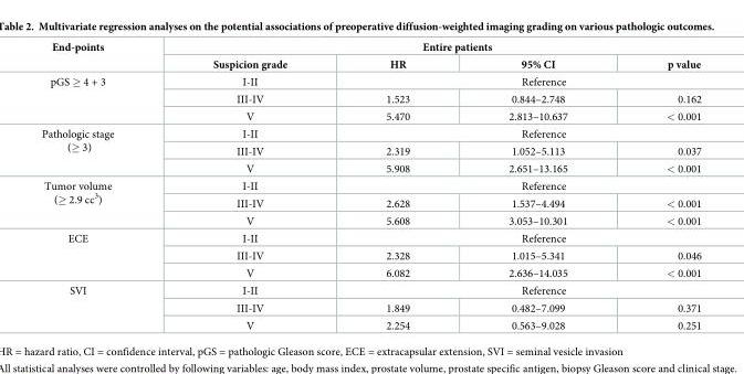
<table><thead><tr><td rowspan="2">End-points</td><td colspan="4">Entire patients</td></tr><tr><td>Suspicion grade</td><td>HR</td><td>95% CI</td><td>p value</td></tr></thead><tbody><tr><td rowspan="3">pGS ≥ 4 + 3</td><td>I-II</td><td colspan="3">Reference</td></tr><tr><td>III-IV</td><td>1.523</td><td>0.844–2.748</td><td>0.162</td></tr><tr><td>V</td><td>5.470</td><td>2.813–10.637</td><td>&lt; 0.001</td></tr><tr><td rowspan="3">Pathologic stage (≥ 3)</td><td>I-II</td><td colspan="3">Reference</td></tr><tr><td>III-IV</td><td>2.319</td><td>1.052–5.113</td><td>0.037</td></tr><tr><td>V</td><td>5.908</td><td>2.651–13.165</td><td>&lt; 0.001</td></tr><tr><td rowspan="3">Tumor volume (≥ 2.9 cc<sup>3</sup>)</td><td>I-II</td><td colspan="3">Reference</td></tr><tr><td>III-IV</td><td>2.628</td><td>1.537–4.494</td><td>&lt; 0.001</td></tr><tr><td>V</td><td>5.608</td><td>3.053–10.301</td><td>&lt; 0.001</td></tr><tr><td rowspan="3">ECE</td><td>I-II</td><td colspan="3">Reference</td></tr><tr><td>III-IV</td><td>2.328</td><td>1.015–5.341</td><td>0.046</td></tr><tr><td>V</td><td>6.082</td><td>2.636–14.035</td><td>&lt; 0.001</td></tr><tr><td rowspan="3">SVI</td><td>I-II</td><td colspan="3">Reference</td></tr><tr><td>III-IV</td><td>1.849</td><td>0.482–7.099</td><td>0.371</td></tr><tr><td>V</td><td>2.254</td><td>0.563–9.028</td><td>0.251</td></tr></tbody></table>